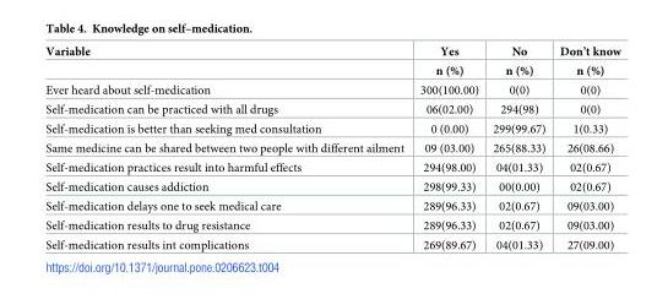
<table><thead><tr><td rowspan="2">Variable</td><td rowspan="2">Yes n (%)</td><td rowspan="2">No n (%)</td><td rowspan="2">Don’t know n (%)</td></tr><tr></tr></thead><tbody><tr><td>Ever heard about self-medication</td><td>300(100.00)</td><td>0(0)</td><td>0(0)</td></tr><tr><td>Self-medication can be practiced with all drugs</td><td>06(02.00)</td><td>294(98)</td><td>0(0)</td></tr><tr><td>Self-medication is better than seeking med consultation</td><td>0 (0.00)</td><td>299(99.67)</td><td>1(0.33)</td></tr><tr><td>Same medicine can be shared between two people with different ailment</td><td>09 (03.00)</td><td>265(88.33)</td><td>26(08.66)</td></tr><tr><td>Self-medication practices result into harmful effects</td><td>294(98.00)</td><td>04(01.33)</td><td>02(0.67)</td></tr><tr><td>Self-medication causes addiction</td><td>298(99.33)</td><td>00(0.00)</td><td>02(0.67)</td></tr><tr><td>Self-medication delays one to seek medical care</td><td>289(96.33)</td><td>02(0.67)</td><td>09(03.00)</td></tr><tr><td>Self-medication results to drug resistance</td><td>289(96.33)</td><td>02(0.67)</td><td>09(03.00)</td></tr><tr><td>Self-medication results int complications</td><td>269(89.67)</td><td>04(01.33)</td><td>27(09.00)</td></tr></tbody></table>